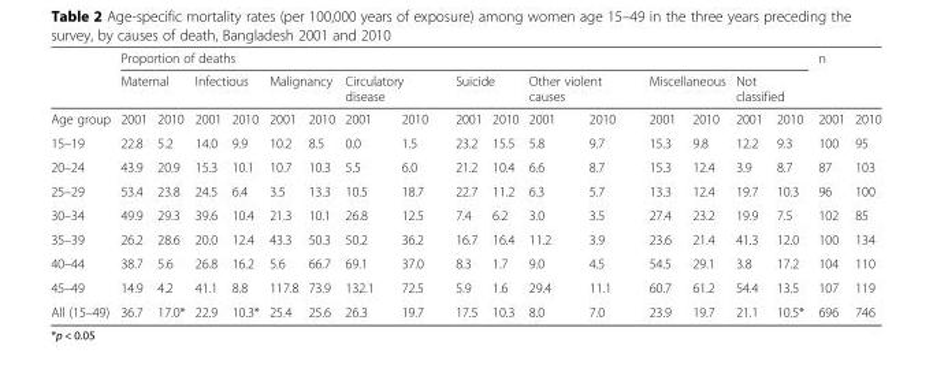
<table><thead><tr><td rowspan="3">Age group</td><td colspan="16">Proportion of deaths</td><td rowspan="2" colspan="2">n</td></tr><tr><td colspan="2">Maternal</td><td colspan="2">Infectious</td><td colspan="2">Malignancy</td><td colspan="2">Circulatory disease</td><td colspan="2">Suicide</td><td colspan="2">Other violent causes</td><td colspan="2">Miscellaneous</td><td colspan="2">Not classified</td></tr><tr><td>2001</td><td>2010</td><td>2001</td><td>2010</td><td>2001</td><td>2010</td><td>2001</td><td>2010</td><td>2001</td><td>2010</td><td>2001</td><td>2010</td><td>2001</td><td>2010</td><td>2001</td><td>2010</td><td>2001</td><td>2010</td></tr></thead><tbody><tr><td>15–19</td><td>22.8</td><td>5.2</td><td>14.0</td><td>9.9</td><td>10.2</td><td>8.5</td><td>0.0</td><td>1.5</td><td>23.2</td><td>15.5</td><td>5.8</td><td>9.7</td><td>15.3</td><td>9.8</td><td>12.2</td><td>9.3</td><td>100</td><td>95</td></tr><tr><td>20–24</td><td>43.9</td><td>20.9</td><td>15.3</td><td>10.1</td><td>10.7</td><td>10.3</td><td>5.5</td><td>6.0</td><td>21.2</td><td>10.4</td><td>6.6</td><td>8.7</td><td>15.3</td><td>12.4</td><td>3.9</td><td>8.7</td><td>87</td><td>103</td></tr><tr><td>25–29</td><td>53.4</td><td>23.8</td><td>24.5</td><td>6.4</td><td>3.5</td><td>13.3</td><td>10.5</td><td>18.7</td><td>22.7</td><td>11.2</td><td>6.3</td><td>5.7</td><td>13.3</td><td>12.4</td><td>19.7</td><td>10.3</td><td>96</td><td>100</td></tr><tr><td>30–34</td><td>49.9</td><td>29.3</td><td>39.6</td><td>10.4</td><td>21.3</td><td>10.1</td><td>26.8</td><td>12.5</td><td>7.4</td><td>6.2</td><td>3.0</td><td>3.5</td><td>27.4</td><td>23.2</td><td>19.9</td><td>7.5</td><td>102</td><td>85</td></tr><tr><td>35–39</td><td>26.2</td><td>28.6</td><td>20.0</td><td>12.4</td><td>43.3</td><td>50.3</td><td>50.2</td><td>36.2</td><td>16.7</td><td>16.4</td><td>11.2</td><td>3.9</td><td>23.6</td><td>21.4</td><td>41.3</td><td>12.0</td><td>100</td><td>134</td></tr><tr><td>40–44</td><td>38.7</td><td>5.6</td><td>26.8</td><td>16.2</td><td>5.6</td><td>66.7</td><td>69.1</td><td>37.0</td><td>8.3</td><td>1.7</td><td>9.0</td><td>4.5</td><td>54.5</td><td>29.1</td><td>3.8</td><td>17.2</td><td>104</td><td>110</td></tr><tr><td>45–49</td><td>14.9</td><td>4.2</td><td>41.1</td><td>8.8</td><td>117.8</td><td>73.9</td><td>132.1</td><td>72.5</td><td>5.9</td><td>1.6</td><td>29.4</td><td>11.1</td><td>60.7</td><td>61.2</td><td>54.4</td><td>13.5</td><td>107</td><td>119</td></tr><tr><td>All (15–49)</td><td>36.7</td><td>17.0*</td><td>22.9</td><td>10.3*</td><td>25.4</td><td>25.6</td><td>26.3</td><td>19.7</td><td>17.5</td><td>10.3</td><td>8.0</td><td>7.0</td><td>23.9</td><td>19.7</td><td>21.1</td><td>10.5*</td><td>696</td><td>746</td></tr></tbody></table>